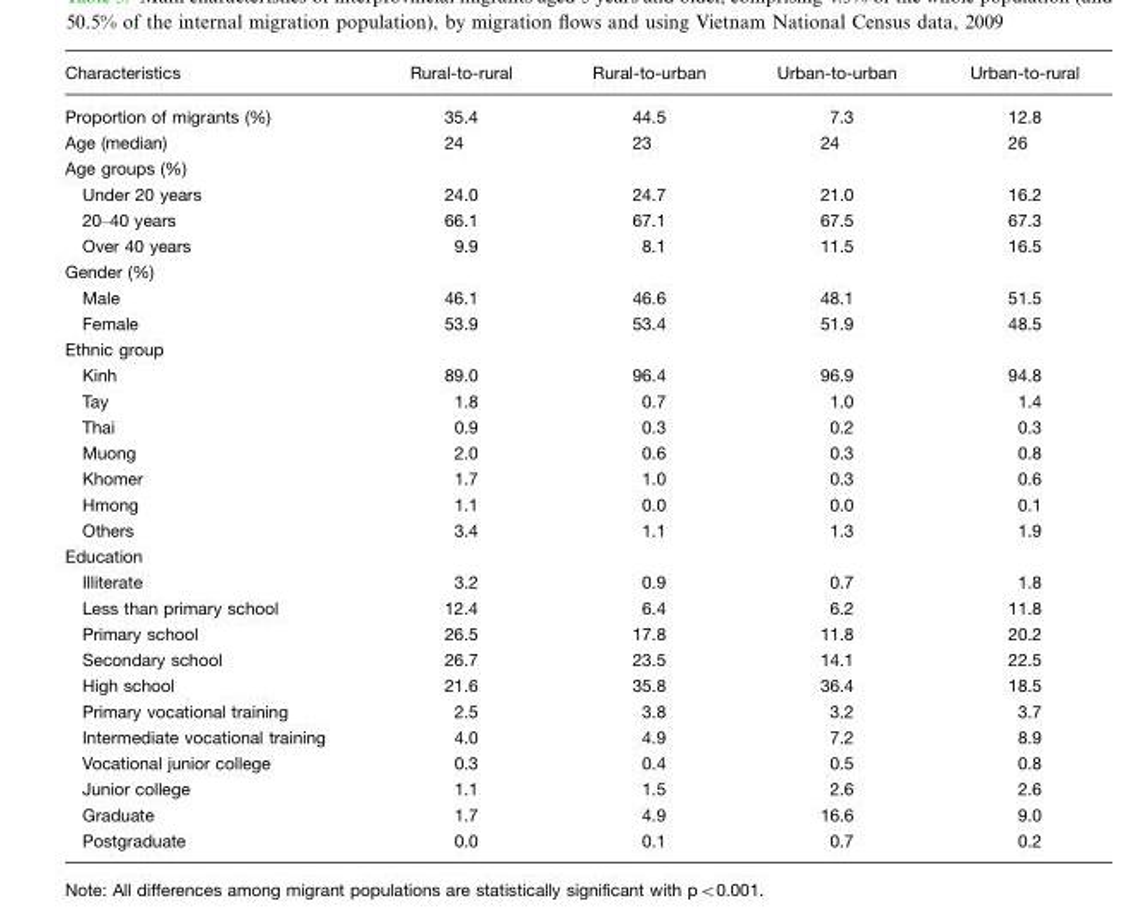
<table><thead><tr><td>Characteristics</td><td>Rural-to-rural</td><td>Rural-to-urban</td><td>Urban-to-urban</td><td>Urban-to-rural</td></tr></thead><tbody><tr><td>Proportion of migrants (%)</td><td>35.4</td><td>44.5</td><td>7.3</td><td>12.8</td></tr><tr><td>Age (median)</td><td>24</td><td>23</td><td>24</td><td>26</td></tr><tr><td colspan="5">Age groups (%)</td></tr><tr><td>Under 20 years</td><td>24.0</td><td>24.7</td><td>21.0</td><td>16.2</td></tr><tr><td>20–40 years</td><td>66.1</td><td>67.1</td><td>67.5</td><td>67.3</td></tr><tr><td>Over 40 years</td><td>9.9</td><td>8.1</td><td>11.5</td><td>16.5</td></tr><tr><td colspan="5">Gender (%)</td></tr><tr><td>Male</td><td>46.1</td><td>46.6</td><td>48.1</td><td>51.5</td></tr><tr><td>Female</td><td>53.9</td><td>53.4</td><td>51.9</td><td>48.5</td></tr><tr><td colspan="5">Ethnic group</td></tr><tr><td>Kinh</td><td>89.0</td><td>96.4</td><td>96.9</td><td>94.8</td></tr><tr><td>Tay</td><td>1.8</td><td>0.7</td><td>1.0</td><td>1.4</td></tr><tr><td>Thai</td><td>0.9</td><td>0.3</td><td>0.2</td><td>0.3</td></tr><tr><td>Muong</td><td>2.0</td><td>0.6</td><td>0.3</td><td>0.8</td></tr><tr><td>Khomer</td><td>1.7</td><td>1.0</td><td>0.3</td><td>0.6</td></tr><tr><td>Hmong</td><td>1.1</td><td>0.0</td><td>0.0</td><td>0.1</td></tr><tr><td>Others</td><td>3.4</td><td>1.1</td><td>1.3</td><td>1.9</td></tr><tr><td colspan="5">Education</td></tr><tr><td>Illiterate</td><td>3.2</td><td>0.9</td><td>0.7</td><td>1.8</td></tr><tr><td>Less than primary school</td><td>12.4</td><td>6.4</td><td>6.2</td><td>11.8</td></tr><tr><td>Primary school</td><td>26.5</td><td>17.8</td><td>11.8</td><td>20.2</td></tr><tr><td>Secondary school</td><td>26.7</td><td>23.5</td><td>14.1</td><td>22.5</td></tr><tr><td>High school</td><td>21.6</td><td>35.8</td><td>36.4</td><td>18.5</td></tr><tr><td>Primary vocational training</td><td>2.5</td><td>3.8</td><td>3.2</td><td>3.7</td></tr><tr><td>Intermediate vocational training</td><td>4.0</td><td>4.9</td><td>7.2</td><td>8.9</td></tr><tr><td>Vocational junior college</td><td>0.3</td><td>0.4</td><td>0.5</td><td>0.8</td></tr><tr><td>Junior college</td><td>1.1</td><td>1.5</td><td>2.6</td><td>2.6</td></tr><tr><td>Graduate</td><td>1.7</td><td>4.9</td><td>16.6</td><td>9.0</td></tr><tr><td>Postgraduate</td><td>0.0</td><td>0.1</td><td>0.7</td><td>0.2</td></tr></tbody></table>